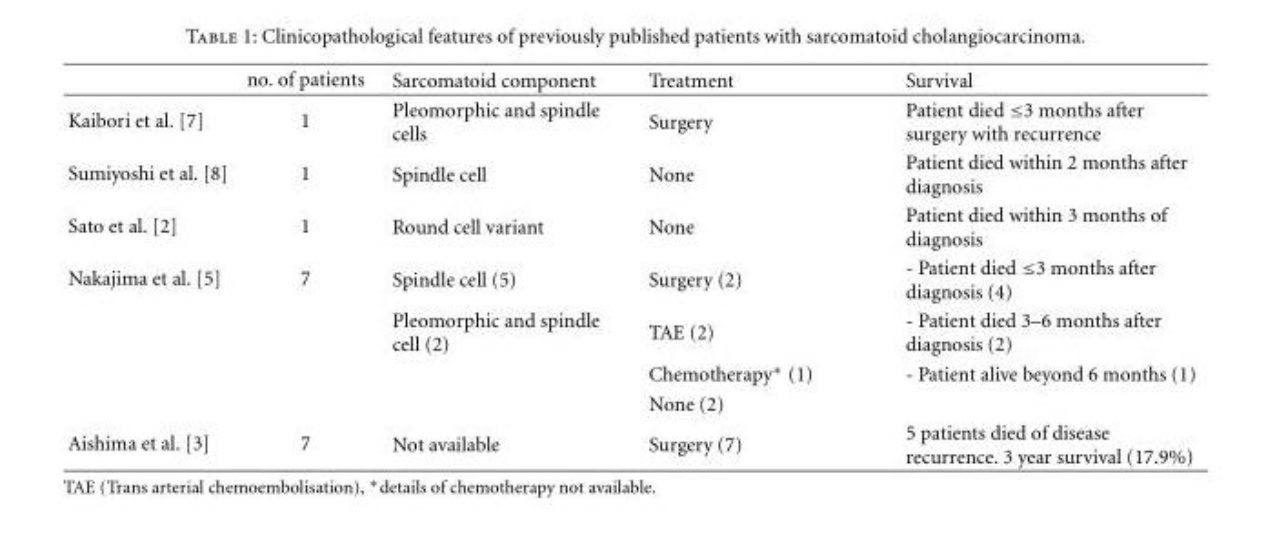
<table><thead><tr><td></td><td>no. of patients</td><td>Sarcomatoid component</td><td>Treatment</td><td>Survival</td></tr></thead><tbody><tr><td>Kaibori et al. [7]</td><td>1</td><td>Pleomorphic and spindle cells</td><td>Surgery</td><td>Patient died ≤3 months after surgery with recurrence</td></tr><tr><td>Sumiyoshi et al. [8]</td><td>1</td><td>Spindle cell</td><td>None</td><td>Patient died within 2 months after diagnosis</td></tr><tr><td>Sato et al. [2]</td><td>1</td><td>Round cell variant</td><td>None</td><td>Patient died within 3 months of diagnosis</td></tr><tr><td rowspan="4">Nakajima et al. [5]</td><td>7</td><td>Spindle cell (5)</td><td>Surgery (2)</td><td>- Patient died ≤3 months after diagnosis (4)</td></tr><tr><td></td><td>Pleomorphic and spindle cell (2)</td><td>TAE (2)</td><td>- Patient died 3–6 months after diagnosis (2)</td></tr><tr><td></td><td></td><td>Chemotherapy∗ (1)</td><td>- Patient alive beyond 6 months (1)</td></tr><tr><td></td><td></td><td>None (2)</td><td></td></tr><tr><td>Aishima et al. [3]</td><td>7</td><td>Not available</td><td>Surgery (7)</td><td>5 patients died of disease recurrence. 3 year survival (17.9%)</td></tr></tbody></table>